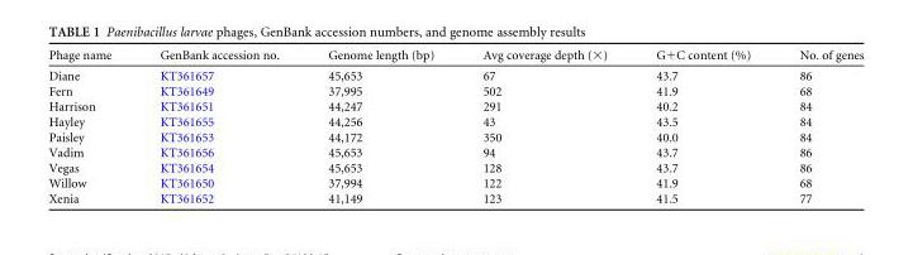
<table><thead><tr><td>Phage name</td><td>GenBank accession no.</td><td>Genome length (bp)</td><td>Avg coverage depth (×)</td><td>G+C content (%)</td><td>No. of genes</td></tr></thead><tbody><tr><td>Diane</td><td>KT361657</td><td>45,653</td><td>67</td><td>43.7</td><td>86</td></tr><tr><td>Fern</td><td>KT361649</td><td>37,995</td><td>502</td><td>41.9</td><td>68</td></tr><tr><td>Harrison</td><td>KT361651</td><td>44,247</td><td>291</td><td>40.2</td><td>84</td></tr><tr><td>Hayley</td><td>KT361655</td><td>44,256</td><td>43</td><td>43.5</td><td>84</td></tr><tr><td>Paisley</td><td>KT361653</td><td>44,172</td><td>350</td><td>40.0</td><td>84</td></tr><tr><td>Vadim</td><td>KT361656</td><td>45,653</td><td>94</td><td>43.7</td><td>86</td></tr><tr><td>Vegas</td><td>KT361654</td><td>45,653</td><td>128</td><td>43.7</td><td>86</td></tr><tr><td>Willow</td><td>KT361650</td><td>37,994</td><td>122</td><td>41.9</td><td>68</td></tr><tr><td>Xenia</td><td>KT361652</td><td>41,149</td><td>123</td><td>41.5</td><td>77</td></tr></tbody></table>